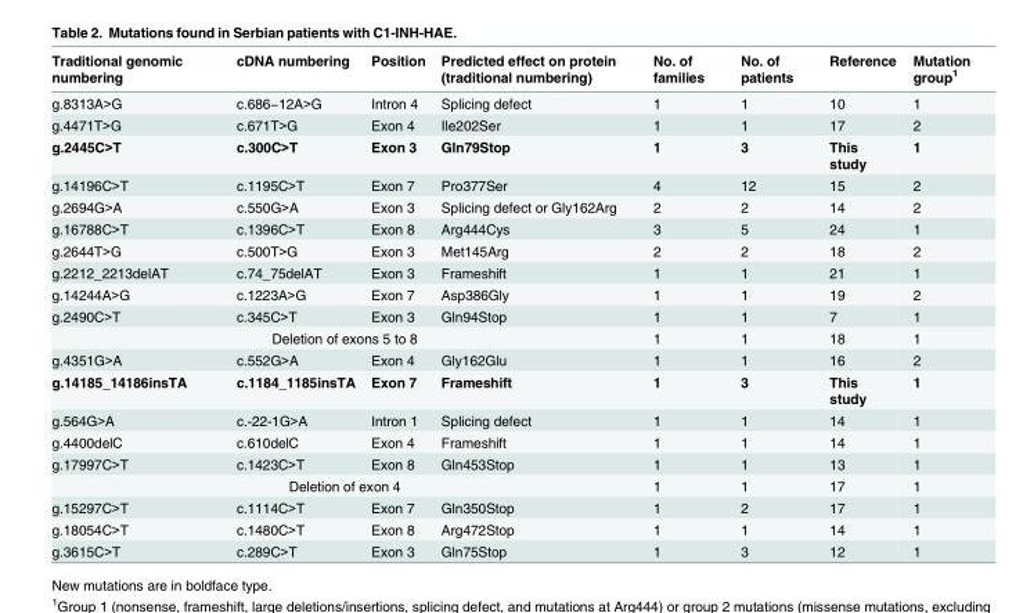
<table><thead><tr><td>Traditional genomic numbering</td><td>cDNA numbering</td><td>Position</td><td>Predicted effect on protein (traditional numbering)</td><td>No. of families</td><td>No. of patients</td><td>Reference</td><td>Mutation group<sup>1</sup></td></tr></thead><tbody><tr><td>g.8313A&gt;G</td><td>c.686−12A&gt;G</td><td>Intron 4</td><td>Splicing defect</td><td>1</td><td>1</td><td>10</td><td>1</td></tr><tr><td>g.4471T&gt;G</td><td>c.671T&gt;G</td><td>Exon 4</td><td>Ile202Ser</td><td>1</td><td>1</td><td>17</td><td>2</td></tr><tr><td>g.2445C&gt;T</td><td>c.300C&gt;T</td><td>Exon 3</td><td>Gln79Stop</td><td>1</td><td>3</td><td>This study</td><td>1</td></tr><tr><td>g.14196C&gt;T</td><td>c.1195C&gt;T</td><td>Exon 7</td><td>Pro377Ser</td><td>4</td><td>12</td><td>15</td><td>2</td></tr><tr><td>g.2694G&gt;A</td><td>c.550G&gt;A</td><td>Exon 3</td><td>Splicing defect or Gly162Arg</td><td>2</td><td>2</td><td>14</td><td>2</td></tr><tr><td>g.16788C&gt;T</td><td>c.1396C&gt;T</td><td>Exon 8</td><td>Arg444Cys</td><td>3</td><td>5</td><td>24</td><td>1</td></tr><tr><td>g.2644T&gt;G</td><td>c.500T&gt;G</td><td>Exon 3</td><td>Met145Arg</td><td>2</td><td>2</td><td>18</td><td>2</td></tr><tr><td>g.2212_2213delAT</td><td>c.74_75delAT</td><td>Exon 3</td><td>Frameshift</td><td>1</td><td>1</td><td>21</td><td>1</td></tr><tr><td>g.14244A&gt;G</td><td>c.1223A&gt;G</td><td>Exon 7</td><td>Asp386Gly</td><td>1</td><td>1</td><td>19</td><td>2</td></tr><tr><td>g.2490C&gt;T</td><td>c.345C&gt;T</td><td>Exon 3</td><td>Gln94Stop</td><td>1</td><td>1</td><td>7</td><td>1</td></tr><tr><td colspan="4">Deletion of exons 5 to 8</td><td>1</td><td>1</td><td>18</td><td>1</td></tr><tr><td>g.4351G&gt;A</td><td>c.552G&gt;A</td><td>Exon 4</td><td>Gly162Glu</td><td>1</td><td>1</td><td>16</td><td>2</td></tr><tr><td>g.14185_14186insTA</td><td>c.1184_1185insTA</td><td>Exon 7</td><td>Frameshift</td><td>1</td><td>3</td><td>This study</td><td>1</td></tr><tr><td>g.564G&gt;A</td><td>c.-22-1G&gt;A</td><td>Intron 1</td><td>Splicing defect</td><td>1</td><td>1</td><td>14</td><td>1</td></tr><tr><td>g.4400delC</td><td>c.610delC</td><td>Exon 4</td><td>Frameshift</td><td>1</td><td>1</td><td>14</td><td>1</td></tr><tr><td>g.17997C&gt;T</td><td>c.1423C&gt;T</td><td>Exon 8</td><td>Gln453Stop</td><td>1</td><td>1</td><td>13</td><td>1</td></tr><tr><td colspan="4">Deletion of exon 4</td><td>1</td><td>1</td><td>17</td><td>1</td></tr><tr><td>g.15297C&gt;T</td><td>c.1114C&gt;T</td><td>Exon 7</td><td>Gln350Stop</td><td>1</td><td>2</td><td>17</td><td>1</td></tr><tr><td>g.18054C&gt;T</td><td>c.1480C&gt;T</td><td>Exon 8</td><td>Arg472Stop</td><td>1</td><td>1</td><td>14</td><td>1</td></tr><tr><td>g.3615C&gt;T</td><td>c.289C&gt;T</td><td>Exon 3</td><td>Gln75Stop</td><td>1</td><td>3</td><td>12</td><td>1</td></tr></tbody></table>